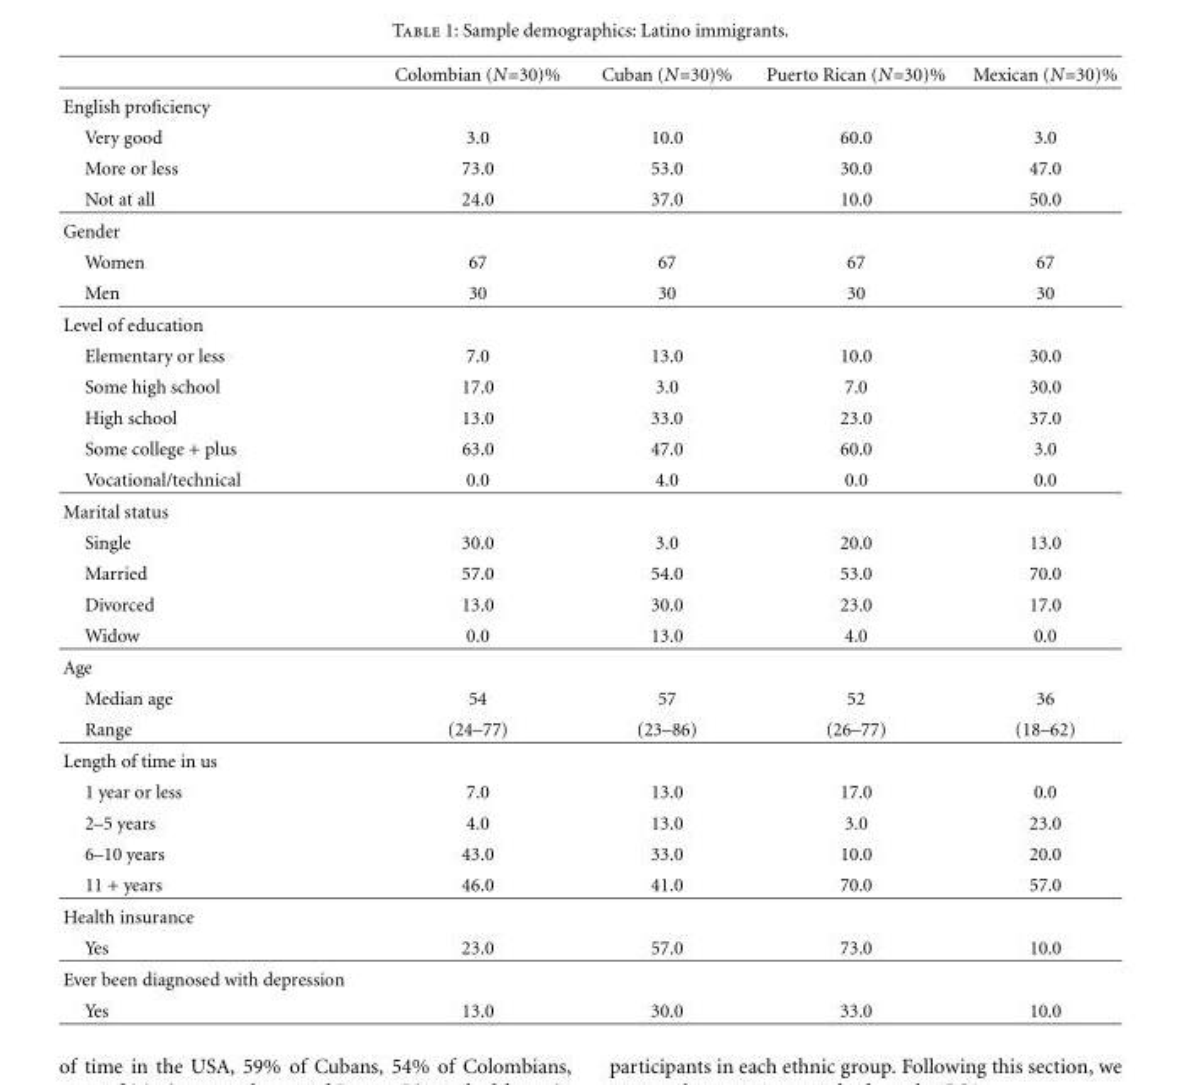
<table><thead><tr><td></td><td>Colombian (N=30)%</td><td>Cuban (N=30)%</td><td>Puerto Rican (N=30)%</td><td>Mexican (N=30)%</td></tr></thead><tbody><tr><td colspan="5">English proficiency</td></tr><tr><td>Very good</td><td>3.0</td><td>10.0</td><td>60.0</td><td>3.0</td></tr><tr><td>More or less</td><td>73.0</td><td>53.0</td><td>30.0</td><td>47.0</td></tr><tr><td>Not at all</td><td>24.0</td><td>37.0</td><td>10.0</td><td>50.0</td></tr><tr><td colspan="5">Gender</td></tr><tr><td>Women</td><td>67</td><td>67</td><td>67</td><td>67</td></tr><tr><td>Men</td><td>30</td><td>30</td><td>30</td><td>30</td></tr><tr><td colspan="5">Level of education</td></tr><tr><td>Elementary or less</td><td>7.0</td><td>13.0</td><td>10.0</td><td>30.0</td></tr><tr><td>Some high school</td><td>17.0</td><td>3.0</td><td>7.0</td><td>30.0</td></tr><tr><td>High school</td><td>13.0</td><td>33.0</td><td>23.0</td><td>37.0</td></tr><tr><td>Some college + plus</td><td>63.0</td><td>47.0</td><td>60.0</td><td>3.0</td></tr><tr><td>Vocational/technical</td><td>0.0</td><td>4.0</td><td>0.0</td><td>0.0</td></tr><tr><td colspan="5">Marital status</td></tr><tr><td>Single</td><td>30.0</td><td>3.0</td><td>20.0</td><td>13.0</td></tr><tr><td>Married</td><td>57.0</td><td>54.0</td><td>53.0</td><td>70.0</td></tr><tr><td>Divorced</td><td>13.0</td><td>30.0</td><td>23.0</td><td>17.0</td></tr><tr><td>Widow</td><td>0.0</td><td>13.0</td><td>4.0</td><td>0.0</td></tr><tr><td colspan="5">Age</td></tr><tr><td>Median age</td><td>54</td><td>57</td><td>52</td><td>36</td></tr><tr><td>Range</td><td>(24–77)</td><td>(23–86)</td><td>(26–77)</td><td>(18–62)</td></tr><tr><td colspan="5">Length of time in us</td></tr><tr><td>1 year or less</td><td>7.0</td><td>13.0</td><td>17.0</td><td>0.0</td></tr><tr><td>2–5 years</td><td>4.0</td><td>13.0</td><td>3.0</td><td>23.0</td></tr><tr><td>6–10 years</td><td>43.0</td><td>33.0</td><td>10.0</td><td>20.0</td></tr><tr><td>11 + years</td><td>46.0</td><td>41.0</td><td>70.0</td><td>57.0</td></tr><tr><td colspan="5">Health insurance</td></tr><tr><td>Yes</td><td>23.0</td><td>57.0</td><td>73.0</td><td>10.0</td></tr><tr><td colspan="5">Ever been diagnosed with depression</td></tr><tr><td>Yes</td><td>13.0</td><td>30.0</td><td>33.0</td><td>10.0</td></tr></tbody></table>